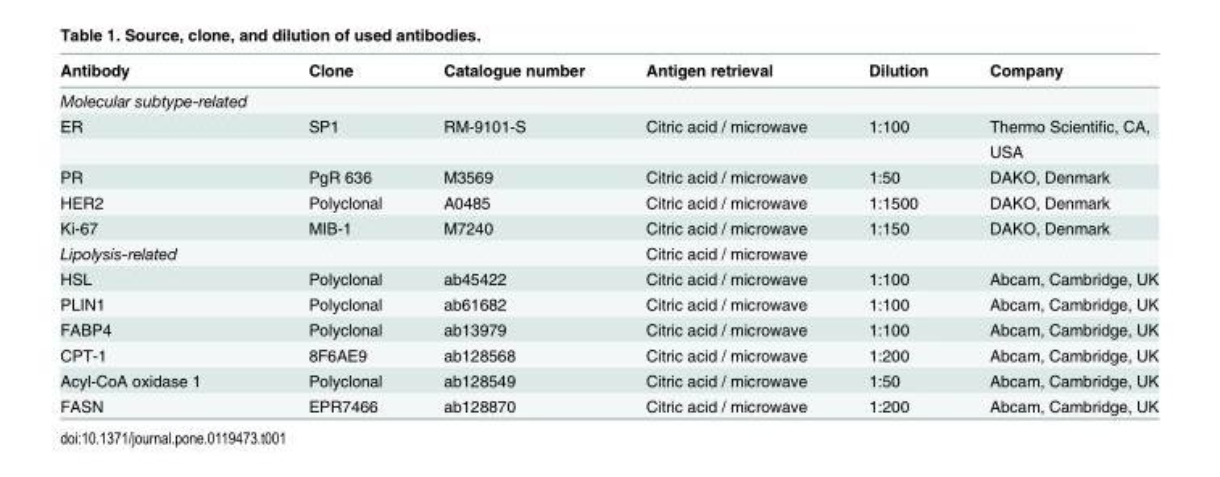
<table><thead><tr><td>Antibody</td><td>Clone</td><td>Catalogue number</td><td>Antigen retrieval</td><td>Dilution</td><td>Company</td></tr></thead><tbody><tr><td colspan="6">Molecular subtype-related</td></tr><tr><td rowspan="2">ER</td><td>SP1</td><td>RM-9101-S</td><td>Citric acid / microwave</td><td>1:100</td><td>Thermo Scientific, CA,</td></tr><tr><td></td><td></td><td></td><td></td><td>USA</td></tr><tr><td>PR</td><td>PgR 636</td><td>M3569</td><td>Citric acid / microwave</td><td>1:50</td><td>DAKO, Denmark</td></tr><tr><td>HER2</td><td>Polyclonal</td><td>A0485</td><td>Citric acid / microwave</td><td>1:1500</td><td>DAKO, Denmark</td></tr><tr><td>Ki-67</td><td>MIB-1</td><td>M7240</td><td>Citric acid / microwave</td><td>1:150</td><td>DAKO, Denmark</td></tr><tr><td>Lipolysis-related</td><td></td><td></td><td>Citric acid / microwave</td><td></td><td></td></tr><tr><td>HSL</td><td>Polyclonal</td><td>ab45422</td><td>Citric acid / microwave</td><td>1:100</td><td>Abcam, Cambridge, UK</td></tr><tr><td>PLIN1</td><td>Polyclonal</td><td>ab61682</td><td>Citric acid / microwave</td><td>1:100</td><td>Abcam, Cambridge, UK</td></tr><tr><td>FABP4</td><td>Polyclonal</td><td>ab13979</td><td>Citric acid / microwave</td><td>1:100</td><td>Abcam, Cambridge, UK</td></tr><tr><td>CPT-1</td><td>8F6AE9</td><td>ab128568</td><td>Citric acid / microwave</td><td>1:200</td><td>Abcam, Cambridge, UK</td></tr><tr><td>Acyl-CoA oxidase 1</td><td>Polyclonal</td><td>ab128549</td><td>Citric acid / microwave</td><td>1:50</td><td>Abcam, Cambridge, UK</td></tr><tr><td>FASN</td><td>EPR7466</td><td>ab128870</td><td>Citric acid / microwave</td><td>1:200</td><td>Abcam, Cambridge, UK</td></tr></tbody></table>